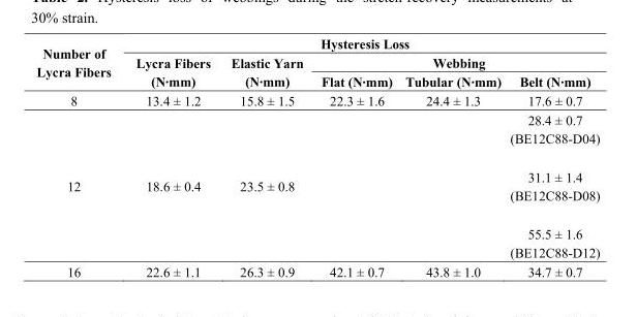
<table><thead><tr><td rowspan="3">Number of Lycra Fibers</td><td colspan="5">Hysteresis Loss</td></tr><tr><td rowspan="2">Lycra Fibers (N·mm)</td><td rowspan="2">Elastic Yarn (N·mm)</td><td colspan="3">Webbing</td></tr><tr><td>Flat (N·mm)</td><td>Tubular (N·mm)</td><td>Belt (N·mm)</td></tr></thead><tbody><tr><td rowspan="2">8</td><td>13.4 ± 1.2</td><td>15.8 ± 1.5</td><td>22.3 ± 1.6</td><td>24.4 ± 1.3</td><td>17.6 ± 0.7</td></tr><tr><td></td><td></td><td></td><td></td><td>28.4 ± 0.7 (BE12C88-D04)</td></tr><tr><td rowspan="2">12</td><td>18.6 ± 0.4</td><td>23.5 ± 0.8</td><td></td><td></td><td>31.1 ± 1.4 (BE12C88-D08)</td></tr><tr><td></td><td></td><td></td><td></td><td>55.5 ± 1.6 (BE12C88-D12)</td></tr><tr><td>16</td><td>22.6 ± 1.1</td><td>26.3 ± 0.9</td><td>42.1 ± 0.7</td><td>43.8 ± 1.0</td><td>34.7 ± 0.7</td></tr></tbody></table>